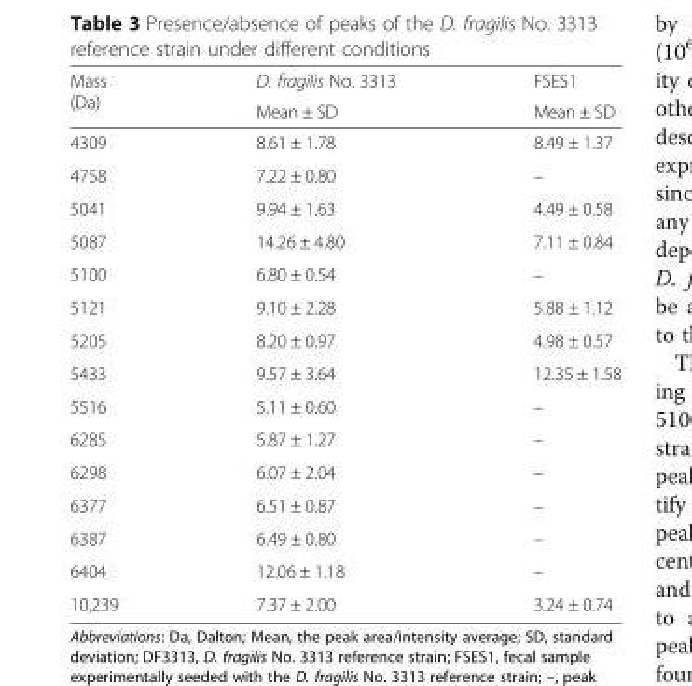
<table><thead><tr><td rowspan="2">Mass (Da)</td><td rowspan="2">D. fragilis No. 3313 Mean ± SD</td><td rowspan="2">FSES1 Mean ± SD</td></tr><tr></tr></thead><tbody><tr><td>4309</td><td>8.61 ± 1.78</td><td>8.49 ± 1.37</td></tr><tr><td>4758</td><td>7.22 ± 0.80</td><td>–</td></tr><tr><td>5041</td><td>9.94 ± 1.63</td><td>4.49 ± 0.58</td></tr><tr><td>5087</td><td>14.26 ± 4.80</td><td>7.11 ± 0.84</td></tr><tr><td>5100</td><td>6.80 ± 0.54</td><td>–</td></tr><tr><td>5121</td><td>9.10 ± 2.28</td><td>5.88 ± 1.12</td></tr><tr><td>5205</td><td>8.20 ± 0.97</td><td>4.98 ± 0.57</td></tr><tr><td>5433</td><td>9.57 ± 3.64</td><td>12.35 ± 1.58</td></tr><tr><td>5516</td><td>5.11 ± 0.60</td><td>–</td></tr><tr><td>6285</td><td>5.87 ± 1.27</td><td>–</td></tr><tr><td>6298</td><td>6.07 ± 2.04</td><td>–</td></tr><tr><td>6377</td><td>6.51 ± 0.87</td><td>–</td></tr><tr><td>6387</td><td>6.49 ± 0.80</td><td>–</td></tr><tr><td>6404</td><td>12.06 ± 1.18</td><td>–</td></tr><tr><td>10,239</td><td>7.37 ± 2.00</td><td>3.24 ± 0.74</td></tr></tbody></table>